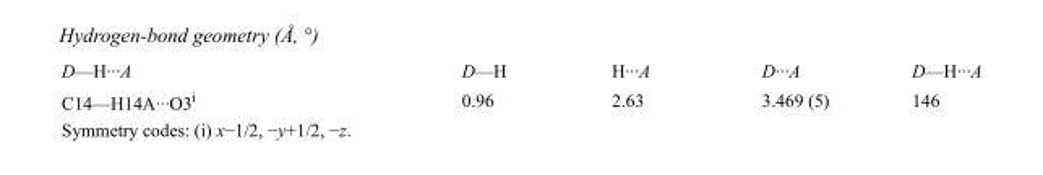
<table><tbody><tr><td>D—H···A</td><td>D—H</td><td>H···A</td><td>D···A</td><td>D—H···A</td></tr><tr><td>C14—H14A···O3<sup>i</sup></td><td>0.96</td><td>2.63</td><td>3.469 (5)</td><td>146</td></tr></tbody></table>